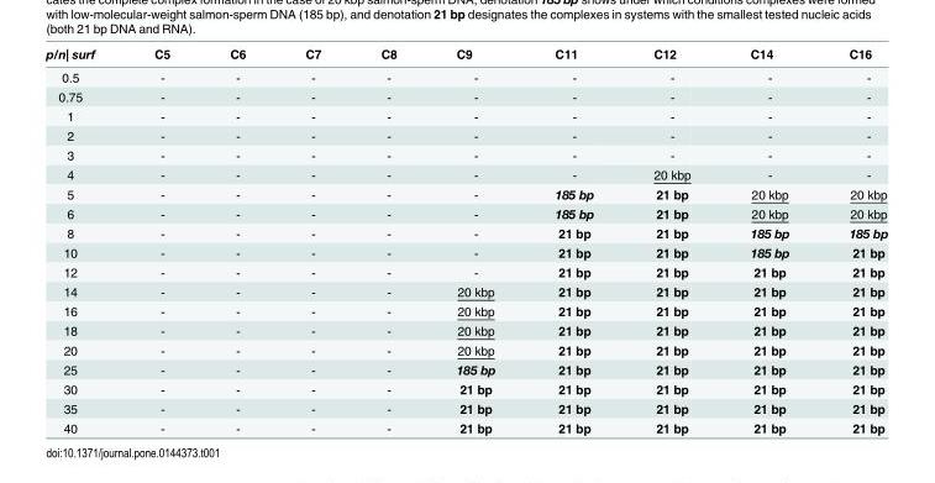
<table><thead><tr><td>p/n| surf</td><td>C5</td><td>C6</td><td>C7</td><td>C8</td><td>C9</td><td>C11</td><td>C12</td><td>C14</td><td>C16</td></tr></thead><tbody><tr><td>0.5</td><td>-</td><td>-</td><td>-</td><td>-</td><td>-</td><td>-</td><td>-</td><td>-</td><td>-</td></tr><tr><td>0.75</td><td>-</td><td>-</td><td>-</td><td>-</td><td>-</td><td>-</td><td>-</td><td>-</td><td>-</td></tr><tr><td>1</td><td>-</td><td>-</td><td>-</td><td>-</td><td>-</td><td>-</td><td>-</td><td>-</td><td>-</td></tr><tr><td>2</td><td>-</td><td>-</td><td>-</td><td>-</td><td>-</td><td>-</td><td>-</td><td>-</td><td>-</td></tr><tr><td>3</td><td>-</td><td>-</td><td>-</td><td>-</td><td>-</td><td>-</td><td>-</td><td>-</td><td>-</td></tr><tr><td>4</td><td>-</td><td>-</td><td>-</td><td>-</td><td>-</td><td>-</td><td>20 kbp</td><td>-</td><td>-</td></tr><tr><td>5</td><td>-</td><td>-</td><td>-</td><td>-</td><td>-</td><td>185 bp</td><td>21 bp</td><td>20 kbp</td><td>20 kbp</td></tr><tr><td>6</td><td>-</td><td>-</td><td>-</td><td>-</td><td>-</td><td>185 bp</td><td>21 bp</td><td>20 kbp</td><td>20 kbp</td></tr><tr><td>8</td><td>-</td><td>-</td><td>-</td><td>-</td><td>-</td><td>21 bp</td><td>21 bp</td><td>185 bp</td><td>185 bp</td></tr><tr><td>10</td><td>-</td><td>-</td><td>-</td><td>-</td><td>-</td><td>21 bp</td><td>21 bp</td><td>185 bp</td><td>21 bp</td></tr><tr><td>12</td><td>-</td><td>-</td><td>-</td><td>-</td><td>-</td><td>21 bp</td><td>21 bp</td><td>21 bp</td><td>21 bp</td></tr><tr><td>14</td><td>-</td><td>-</td><td>-</td><td>-</td><td>20 kbp</td><td>21 bp</td><td>21 bp</td><td>21 bp</td><td>21 bp</td></tr><tr><td>16</td><td>-</td><td>-</td><td>-</td><td>-</td><td>20 kbp</td><td>21 bp</td><td>21 bp</td><td>21 bp</td><td>21 bp</td></tr><tr><td>18</td><td>-</td><td>-</td><td>-</td><td>-</td><td>20 kbp</td><td>21 bp</td><td>21 bp</td><td>21 bp</td><td>21 bp</td></tr><tr><td>20</td><td>-</td><td>-</td><td>-</td><td>-</td><td>20 kbp</td><td>21 bp</td><td>21 bp</td><td>21 bp</td><td>21 bp</td></tr><tr><td>25</td><td>-</td><td>-</td><td>-</td><td>-</td><td>185 bp</td><td>21 bp</td><td>21 bp</td><td>21 bp</td><td>21 bp</td></tr><tr><td>30</td><td>-</td><td>-</td><td>-</td><td>-</td><td>21 bp</td><td>21 bp</td><td>21 bp</td><td>21 bp</td><td>21 bp</td></tr><tr><td>35</td><td>-</td><td>-</td><td>-</td><td>-</td><td>21 bp</td><td>21 bp</td><td>21 bp</td><td>21 bp</td><td>21 bp</td></tr><tr><td>40</td><td>-</td><td>-</td><td>-</td><td>-</td><td>21 bp</td><td>21 bp</td><td>21 bp</td><td>21 bp</td><td>21 bp</td></tr></tbody></table>